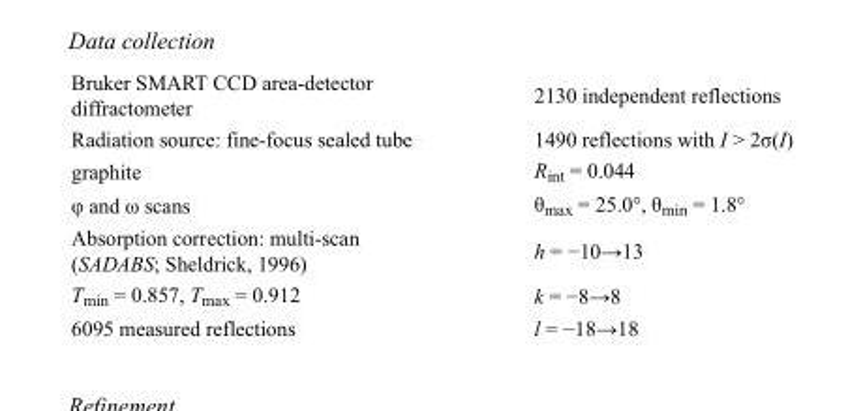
<table><tbody><tr><td>Bruker SMART CCD area-detector diffractometer</td><td>2130 independent reflections</td></tr><tr><td>Radiation source: fine-focus sealed tube</td><td>1490 reflections with I &gt; 2σ(I)</td></tr><tr><td>graphite</td><td>R<sub>int</sub> = 0.044</td></tr><tr><td>φ and ω scans</td><td>θ<sub>max</sub> = 25.0°, θ<sub>min</sub> = 1.8°</td></tr><tr><td>Absorption correction: multi-scan (SADABS; Sheldrick, 1996)</td><td>h = −10→13</td></tr><tr><td>T<sub>min</sub> = 0.857, T<sub>max</sub> = 0.912</td><td>k = −8→8</td></tr><tr><td>6095 measured reflections</td><td>l = −18→18</td></tr></tbody></table>